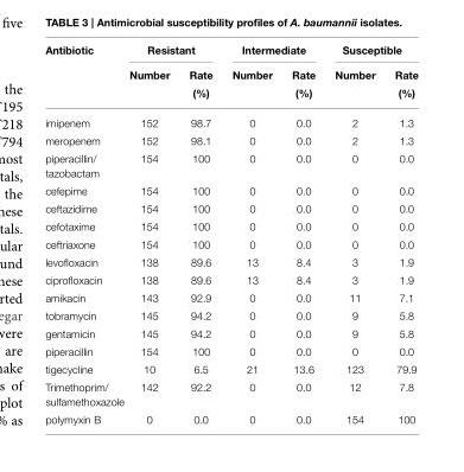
<table><thead><tr><td rowspan="2">Antibiotic</td><td colspan="2">Resistant</td><td colspan="2">Intermediate</td><td colspan="2">Susceptible</td></tr><tr><td>Number</td><td>Rate (%)</td><td>Number</td><td>Rate (%)</td><td>Number</td><td>Rate (%)</td></tr></thead><tbody><tr><td>imipenem</td><td>152</td><td>98.7</td><td>0</td><td>0.0</td><td>2</td><td>1.3</td></tr><tr><td>meropenem</td><td>152</td><td>98.1</td><td>0</td><td>0.0</td><td>2</td><td>1.3</td></tr><tr><td>piperacillin/ tazobactam</td><td>154</td><td>100</td><td>0</td><td>0.0</td><td>0</td><td>0.0</td></tr><tr><td>cefepime</td><td>154</td><td>100</td><td>0</td><td>0.0</td><td>0</td><td>0.0</td></tr><tr><td>ceftazidime</td><td>154</td><td>100</td><td>0</td><td>0.0</td><td>0</td><td>0.0</td></tr><tr><td>cefotaxime</td><td>154</td><td>100</td><td>0</td><td>0.0</td><td>0</td><td>0.0</td></tr><tr><td>ceftriaxone</td><td>154</td><td>100</td><td>0</td><td>0.0</td><td>0</td><td>0.0</td></tr><tr><td>levofloxacin</td><td>138</td><td>89.6</td><td>13</td><td>8.4</td><td>3</td><td>1.9</td></tr><tr><td>ciprofloxacin</td><td>138</td><td>89.6</td><td>13</td><td>8.4</td><td>3</td><td>1.9</td></tr><tr><td>amikacin</td><td>143</td><td>92.9</td><td>0</td><td>0.0</td><td>11</td><td>7.1</td></tr><tr><td>tobramycin</td><td>145</td><td>94.2</td><td>0</td><td>0.0</td><td>9</td><td>5.8</td></tr><tr><td>gentamicin</td><td>145</td><td>94.2</td><td>0</td><td>0.0</td><td>9</td><td>5.8</td></tr><tr><td>piperacillin</td><td>154</td><td>100</td><td>0</td><td>0.0</td><td>0</td><td>0.0</td></tr><tr><td>tigecycline</td><td>10</td><td>6.5</td><td>21</td><td>13.6</td><td>123</td><td>79.9</td></tr><tr><td>Trimethoprim/ sulfamethoxazole</td><td>142</td><td>92.2</td><td>0</td><td>0.0</td><td>12</td><td>7.8</td></tr><tr><td>polymyxin B</td><td>0</td><td>0.0</td><td>0</td><td>0.0</td><td>154</td><td>100</td></tr></tbody></table>